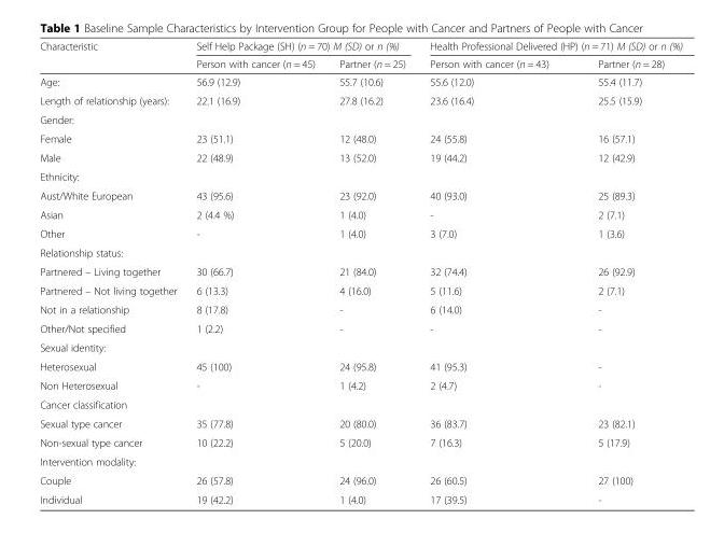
<table><thead><tr><td rowspan="2">Characteristic</td><td colspan="2">Self Help Package (SH) (n = 70) M (SD) or n (%)</td><td colspan="2">Health Professional Delivered (HP) (n = 71) M (SD) or n (%)</td></tr><tr><td>Person with cancer (n = 45)</td><td>Partner (n = 25)</td><td>Person with cancer (n = 43)</td><td>Partner (n = 28)</td></tr></thead><tbody><tr><td>Age:</td><td>56.9 (12.9)</td><td>55.7 (10.6)</td><td>55.6 (12.0)</td><td>55.4 (11.7)</td></tr><tr><td>Length of relationship (years):</td><td>22.1 (16.9)</td><td>27.8 (16.2)</td><td>23.6 (16.4)</td><td>25.5 (15.9)</td></tr><tr><td colspan="5">Gender:</td></tr><tr><td>Female</td><td>23 (51.1)</td><td>12 (48.0)</td><td>24 (55.8)</td><td>16 (57.1)</td></tr><tr><td>Male</td><td>22 (48.9)</td><td>13 (52.0)</td><td>19 (44.2)</td><td>12 (42.9)</td></tr><tr><td colspan="5">Ethnicity:</td></tr><tr><td>Aust/White European</td><td>43 (95.6)</td><td>23 (92.0)</td><td>40 (93.0)</td><td>25 (89.3)</td></tr><tr><td>Asian</td><td>2 (4.4 %)</td><td>1 (4.0)</td><td>-</td><td>2 (7.1)</td></tr><tr><td>Other</td><td>-</td><td>1 (4.0)</td><td>3 (7.0)</td><td>1 (3.6)</td></tr><tr><td colspan="5">Relationship status:</td></tr><tr><td>Partnered – Living together</td><td>30 (66.7)</td><td>21 (84.0)</td><td>32 (74.4)</td><td>26 (92.9)</td></tr><tr><td>Partnered – Not living together</td><td>6 (13.3)</td><td>4 (16.0)</td><td>5 (11.6)</td><td>2 (7.1)</td></tr><tr><td>Not in a relationship</td><td>8 (17.8)</td><td>-</td><td>6 (14.0)</td><td>-</td></tr><tr><td>Other/Not specified</td><td>1 (2.2)</td><td>-</td><td>-</td><td>-</td></tr><tr><td colspan="5">Sexual identity:</td></tr><tr><td>Heterosexual</td><td>45 (100)</td><td>24 (95.8)</td><td>41 (95.3)</td><td>-</td></tr><tr><td>Non Heterosexual</td><td>-</td><td>1 (4.2)</td><td>2 (4.7)</td><td>-</td></tr><tr><td colspan="5">Cancer classification</td></tr><tr><td>Sexual type cancer</td><td>35 (77.8)</td><td>20 (80.0)</td><td>36 (83.7)</td><td>23 (82.1)</td></tr><tr><td>Non-sexual type cancer</td><td>10 (22.2)</td><td>5 (20.0)</td><td>7 (16.3)</td><td>5 (17.9)</td></tr><tr><td colspan="5">Intervention modality:</td></tr><tr><td>Couple</td><td>26 (57.8)</td><td>24 (96.0)</td><td>26 (60.5)</td><td>27 (100)</td></tr><tr><td>Individual</td><td>19 (42.2)</td><td>1 (4.0)</td><td>17 (39.5)</td><td>-</td></tr></tbody></table>